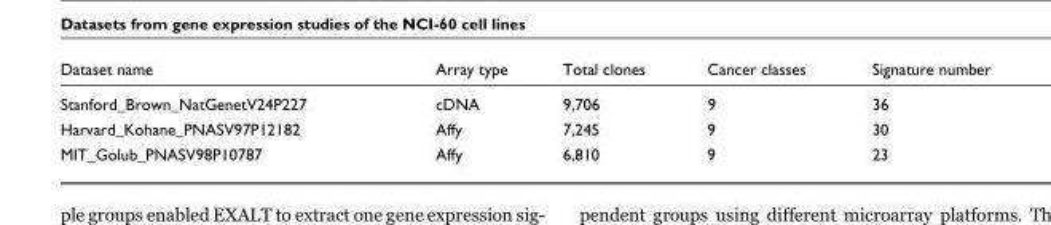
<table><thead><tr><td>Dataset name</td><td>Array type</td><td>Total clones</td><td>Cancer classes</td><td>Signature number</td></tr></thead><tbody><tr><td>Stanford_Brown_NatGenetV24P227</td><td>cDNA</td><td>9,706</td><td>9</td><td>36</td></tr><tr><td>Harvard_Kohane_PNASV97P12182</td><td>Affy</td><td>7,245</td><td>9</td><td>30</td></tr><tr><td>MIT_Golub_PNASV98P10787</td><td>Affy</td><td>6,810</td><td>9</td><td>23</td></tr></tbody></table>